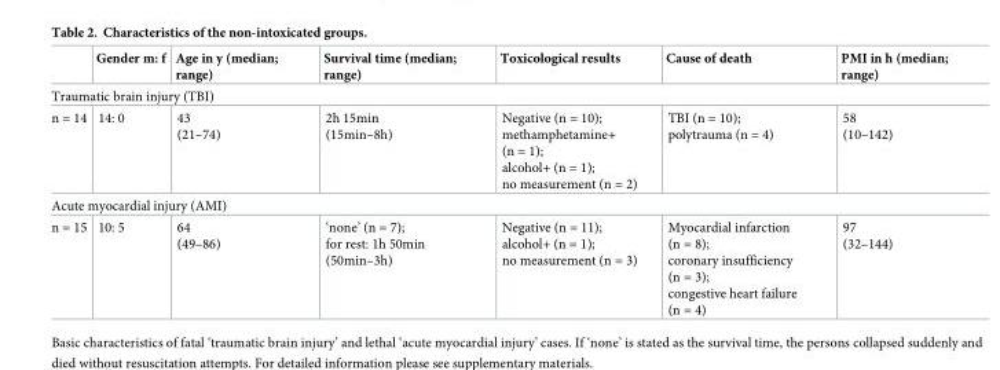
<table><thead><tr><td></td><td>Gender m: f</td><td>Age in y (median; range)</td><td>Survival time (median; range)</td><td>Toxicological results</td><td>Cause of death</td><td>PMI in h (median; range)</td></tr></thead><tbody><tr><td colspan="7">Traumatic brain injury (TBI)</td></tr><tr><td>n = 14</td><td>14: 0</td><td>43 (21–74)</td><td>2h 15min (15min–8h)</td><td>Negative (n = 10); methamphetamine+ (n = 1); alcohol+ (n = 1); no measurement (n = 2)</td><td>TBI (n = 10); polytrauma (n = 4)</td><td>58 (10–142)</td></tr><tr><td colspan="7">Acute myocardial injury (AMI)</td></tr><tr><td>n = 15</td><td>10: 5</td><td>64 (49–86)</td><td>‘none’ (n = 7); for rest: 1h 50min (50min–3h)</td><td>Negative (n = 11); alcohol+ (n = 1); no measurement (n = 3)</td><td>Myocardial infarction (n = 8); coronary insufficiency (n = 3); congestive heart failure (n = 4)</td><td>97 (32–144)</td></tr></tbody></table>